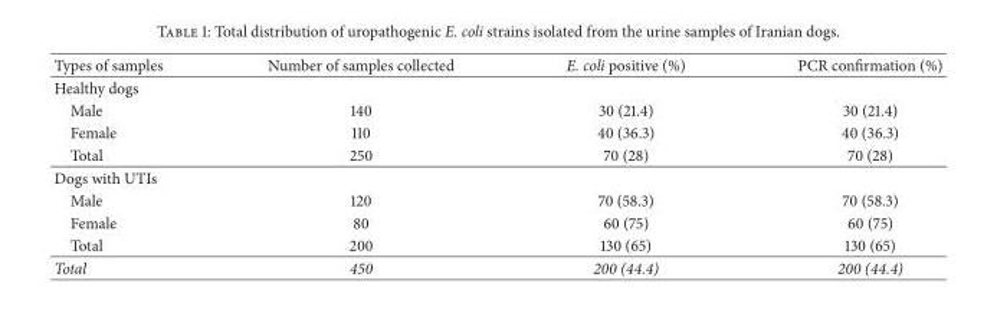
<table><thead><tr><td>Types of samples</td><td>Number of samples collected</td><td>E. coli positive (%)</td><td>PCR confirmation (%)</td></tr></thead><tbody><tr><td colspan="4">Healthy dogs</td></tr><tr><td>Male</td><td>140</td><td>30 (21.4)</td><td>30 (21.4)</td></tr><tr><td>Female</td><td>110</td><td>40 (36.3)</td><td>40 (36.3)</td></tr><tr><td>Total</td><td>250</td><td>70 (28)</td><td>70 (28)</td></tr><tr><td colspan="4">Dogs with UTIs</td></tr><tr><td>Male</td><td>120</td><td>70 (58.3)</td><td>70 (58.3)</td></tr><tr><td>Female</td><td>80</td><td>60 (75)</td><td>60 (75)</td></tr><tr><td>Total</td><td>200</td><td>130 (65)</td><td>130 (65)</td></tr><tr><td>Total</td><td>450</td><td>200 (44.4)</td><td>200 (44.4)</td></tr></tbody></table>